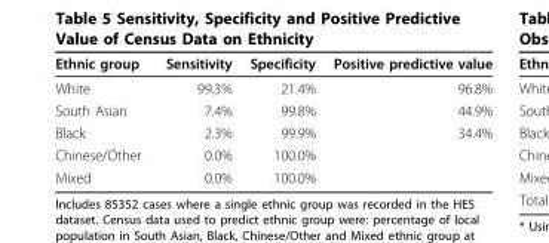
<table><thead><tr><td>Ethnic group</td><td>Sensitivity</td><td>Specificity</td><td>Positive predictive value</td></tr></thead><tbody><tr><td>White</td><td>99.3%</td><td>21.4%</td><td>96.8%</td></tr><tr><td>South Asian</td><td>7.4%</td><td>99.8%</td><td>44.9%</td></tr><tr><td>Black</td><td>2.3%</td><td>99.9%</td><td>34.4%</td></tr><tr><td>Chinese/Other</td><td>0.0%</td><td>100.0%</td><td></td></tr><tr><td>Mixed</td><td>0.0%</td><td>100.0%</td><td></td></tr></tbody></table>